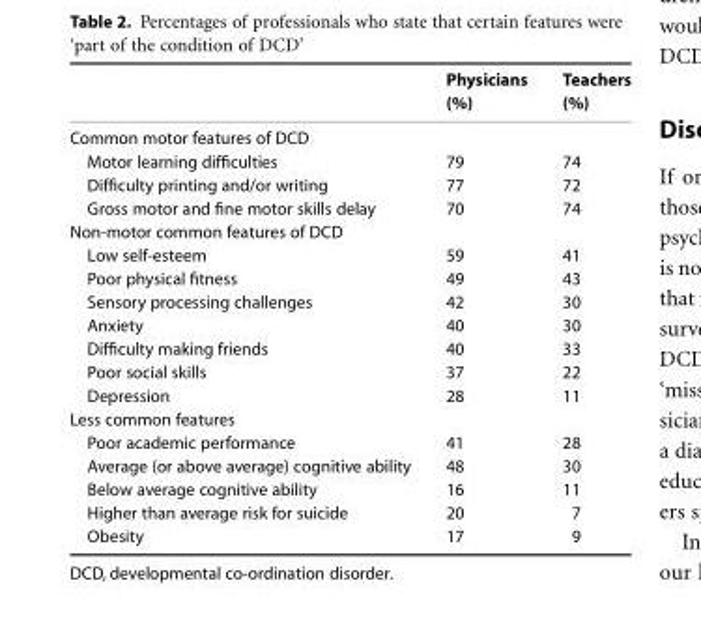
<table><thead><tr><td></td><td>Physicians (%)</td><td>Teachers (%)</td></tr></thead><tbody><tr><td colspan="3">Common motor features of DCD</td></tr><tr><td>Motor learning difficulties</td><td>79</td><td>74</td></tr><tr><td>Difficulty printing and/or writing</td><td>77</td><td>72</td></tr><tr><td>Gross motor and fine motor skills delay</td><td>70</td><td>74</td></tr><tr><td colspan="3">Non-motor common features of DCD</td></tr><tr><td>Low self-esteem</td><td>59</td><td>41</td></tr><tr><td>Poor physical fitness</td><td>49</td><td>43</td></tr><tr><td>Sensory processing challenges</td><td>42</td><td>30</td></tr><tr><td>Anxiety</td><td>40</td><td>30</td></tr><tr><td>Difficulty making friends</td><td>40</td><td>33</td></tr><tr><td>Poor social skills</td><td>37</td><td>22</td></tr><tr><td>Depression</td><td>28</td><td>11</td></tr><tr><td colspan="3">Less common features</td></tr><tr><td>Poor academic performance</td><td>41</td><td>28</td></tr><tr><td>Average (or above average) cognitive ability</td><td>48</td><td>30</td></tr><tr><td>Below average cognitive ability</td><td>16</td><td>11</td></tr><tr><td>Higher than average risk for suicide</td><td>20</td><td>7</td></tr><tr><td>Obesity</td><td>17</td><td>9</td></tr></tbody></table>